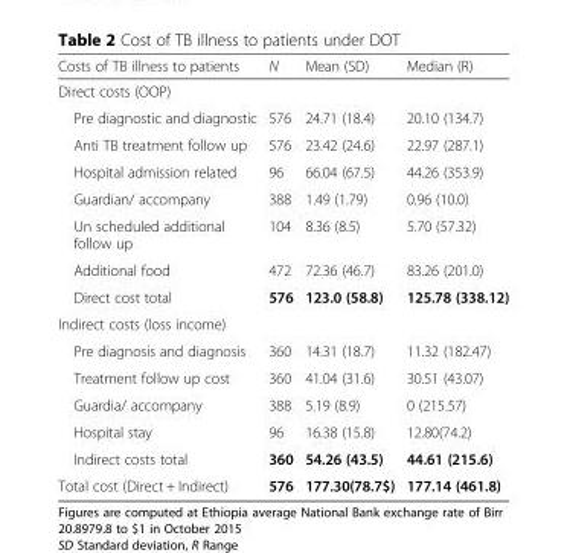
<table><thead><tr><td>Costs of TB illness to patients</td><td>N</td><td>Mean (SD)</td><td>Median (R)</td></tr></thead><tbody><tr><td colspan="4">Direct costs (OOP)</td></tr><tr><td>Pre diagnostic and diagnostic</td><td>576</td><td>24.71 (18.4)</td><td>20.10 (134.7)</td></tr><tr><td>Anti TB treatment follow up</td><td>576</td><td>23.42 (24.6)</td><td>22.97 (287.1)</td></tr><tr><td>Hospital admission related</td><td>96</td><td>66.04 (67.5)</td><td>44.26 (353.9)</td></tr><tr><td>Guardian/ accompany</td><td>388</td><td>1.49 (1.79)</td><td>0.96 (10.0)</td></tr><tr><td>Un scheduled additional follow up</td><td>104</td><td>8.36 (8.5)</td><td>5.70 (57.32)</td></tr><tr><td>Additional food</td><td>472</td><td>72.36 (46.7)</td><td>83.26 (201.0)</td></tr><tr><td>Direct cost total</td><td>576</td><td>123.0 (58.8)</td><td>125.78 (338.12)</td></tr><tr><td colspan="4">Indirect costs (loss income)</td></tr><tr><td>Pre diagnosis and diagnosis</td><td>360</td><td>14.31 (18.7)</td><td>11.32 (182.47)</td></tr><tr><td>Treatment follow up cost</td><td>360</td><td>41.04 (31.6)</td><td>30.51 (43.07)</td></tr><tr><td>Guardia/ accompany</td><td>388</td><td>5.19 (8.9)</td><td>0 (215.57)</td></tr><tr><td>Hospital stay</td><td>96</td><td>16.38 (15.8)</td><td>12.80(74.2)</td></tr><tr><td>Indirect costs total</td><td>360</td><td>54.26 (43.5)</td><td>44.61 (215.6)</td></tr><tr><td>Total cost (Direct + Indirect)</td><td>576</td><td>177.30(78.7$)</td><td>177.14 (461.8)</td></tr></tbody></table>